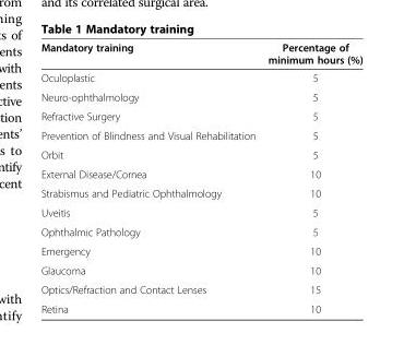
<table><thead><tr><td>Mandatory training</td><td>Percentage of minimum hours (%)</td></tr></thead><tbody><tr><td>Oculoplastic</td><td>5</td></tr><tr><td>Neuro-ophthalmology</td><td>5</td></tr><tr><td>Refractive Surgery</td><td>5</td></tr><tr><td>Prevention of Blindness and Visual Rehabilitation</td><td>5</td></tr><tr><td>Orbit</td><td>5</td></tr><tr><td>External Disease/Cornea</td><td>10</td></tr><tr><td>Strabismus and Pediatric Ophthalmology</td><td>10</td></tr><tr><td>Uveitis</td><td>5</td></tr><tr><td>Ophthalmic Pathology</td><td>5</td></tr><tr><td>Emergency</td><td>10</td></tr><tr><td>Glaucoma</td><td>10</td></tr><tr><td>Optics/Refraction and Contact Lenses</td><td>15</td></tr><tr><td>Retina</td><td>10</td></tr></tbody></table>